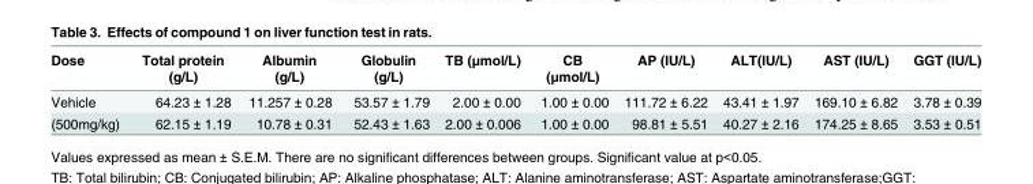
<table><thead><tr><td>Dose</td><td>Total protein (g/L)</td><td>Albumin (g/L)</td><td>Globulin (g/L)</td><td>TB (μmol/L)</td><td>CB (μmol/L)</td><td>AP (IU/L)</td><td>ALT(IU/L)</td><td>AST (IU/L)</td><td>GGT (IU/L)</td></tr></thead><tbody><tr><td>Vehicle</td><td>64.23 ± 1.28</td><td>11.257 ± 0.28</td><td>53.57 ± 1.79</td><td>2.00 ± 0.00</td><td>1.00 ± 0.00</td><td>111.72 ± 6.22</td><td>43.41 ± 1.97</td><td>169.10 ± 6.82</td><td>3.78 ± 0.39</td></tr><tr><td>(500mg/kg)</td><td>62.15 ± 1.19</td><td>10.78 ± 0.31</td><td>52.43 ± 1.63</td><td>2.00 ± 0.006</td><td>1.00 ± 0.00</td><td>98.81 ± 5.51</td><td>40.27 ± 2.16</td><td>174.25 ± 8.65</td><td>3.53 ± 0.51</td></tr></tbody></table>